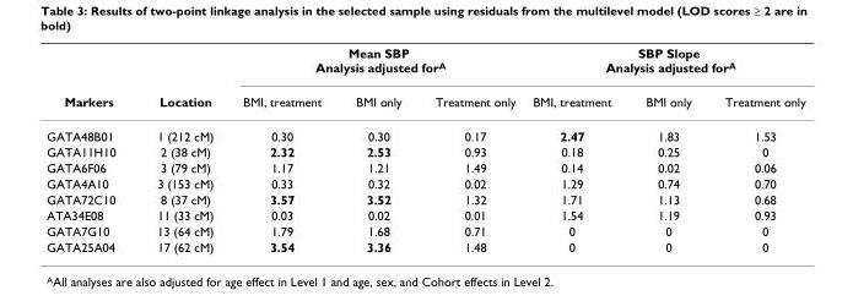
<table><thead><tr><td rowspan="2">Markers</td><td rowspan="2">Location</td><td colspan="3">Mean SBP Analysis adjusted forA</td><td colspan="3">SBP Slope Analysis adjusted forA</td></tr><tr><td>BMI, treatment</td><td>BMI only</td><td>Treatment only</td><td>BMI, treatment</td><td>BMI only</td><td>Treatment only</td></tr></thead><tbody><tr><td>GATA48B01</td><td>1 (212 cM)</td><td>0.30</td><td>0.30</td><td>0.17</td><td>2.47</td><td>1.83</td><td>1.53</td></tr><tr><td>GATA11H10</td><td>2 (38 cM)</td><td>2.32</td><td>2.53</td><td>0.93</td><td>0.18</td><td>0.25</td><td>0</td></tr><tr><td>GATA6F06</td><td>3 (79 cM)</td><td>1.17</td><td>1.21</td><td>1.49</td><td>0.14</td><td>0.02</td><td>0.06</td></tr><tr><td>GATA4A10</td><td>3 (153 cM)</td><td>0.33</td><td>0.32</td><td>0.02</td><td>1.29</td><td>0.74</td><td>0.70</td></tr><tr><td>GATA72C10</td><td>8 (37 cM)</td><td>3.57</td><td>3.52</td><td>1.32</td><td>1.71</td><td>1.13</td><td>0.68</td></tr><tr><td>ATA34E08</td><td>11 (33 cM)</td><td>0.03</td><td>0.02</td><td>0.01</td><td>1.54</td><td>1.19</td><td>0.93</td></tr><tr><td>GATA7G10</td><td>13 (64 cM)</td><td>1.79</td><td>1.68</td><td>0.71</td><td>0</td><td>0</td><td>0</td></tr><tr><td>GATA25A04</td><td>17 (62 cM)</td><td>3.54</td><td>3.36</td><td>1.48</td><td>0</td><td>0</td><td>0</td></tr></tbody></table>